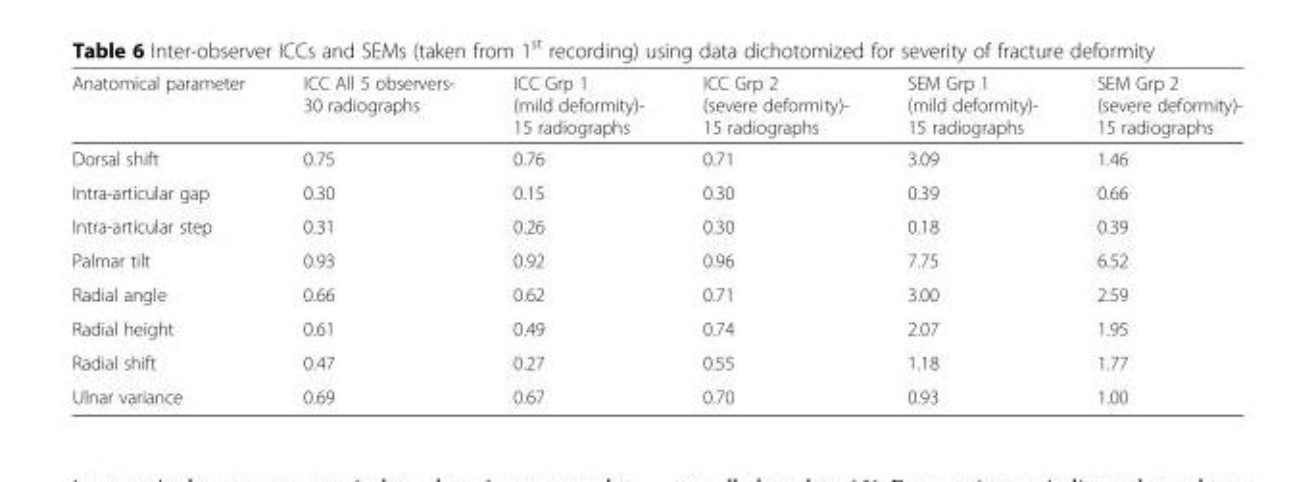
<table><thead><tr><td>Anatomical parameter</td><td>ICC All 5 observers- 30 radiographs</td><td>ICC Grp 1 (mild deformity)- 15 radiographs</td><td>ICC Grp 2 (severe deformity)- 15 radiographs</td><td>SEM Grp 1 (mild deformity)- 15 radiographs</td><td>SEM Grp 2 (severe deformity)- 15 radiographs</td></tr></thead><tbody><tr><td>Dorsal shift</td><td>0.75</td><td>0.76</td><td>0.71</td><td>3.09</td><td>1.46</td></tr><tr><td>Intra-articular gap</td><td>0.30</td><td>0.15</td><td>0.30</td><td>0.39</td><td>0.66</td></tr><tr><td>Intra-articular step</td><td>0.31</td><td>0.26</td><td>0.30</td><td>0.18</td><td>0.39</td></tr><tr><td>Palmar tilt</td><td>0.93</td><td>0.92</td><td>0.96</td><td>7.75</td><td>6.52</td></tr><tr><td>Radial angle</td><td>0.66</td><td>0.62</td><td>0.71</td><td>3.00</td><td>2.59</td></tr><tr><td>Radial height</td><td>0.61</td><td>0.49</td><td>0.74</td><td>2.07</td><td>1.95</td></tr><tr><td>Radial shift</td><td>0.47</td><td>0.27</td><td>0.55</td><td>1.18</td><td>1.77</td></tr><tr><td>Ulnar variance</td><td>0.69</td><td>0.67</td><td>0.70</td><td>0.93</td><td>1.00</td></tr></tbody></table>